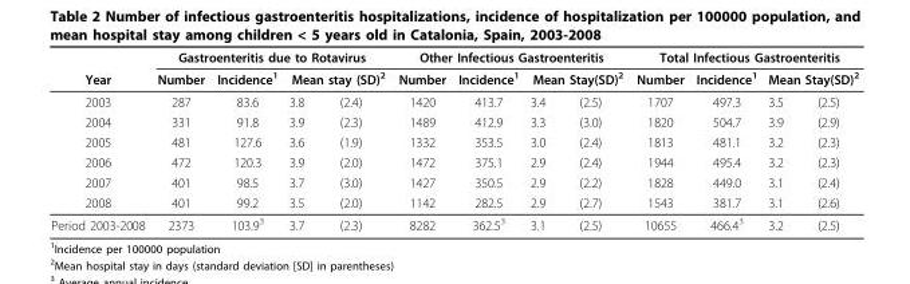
<table><thead><tr><td rowspan="3">Year 2003</td><td colspan="4">Gastroenteritis due to Rotavirus</td><td colspan="4">Other Infectious Gastroenteritis</td><td colspan="4">Total Infectious Gastroenteritis</td></tr><tr><td rowspan="2">Number 287</td><td rowspan="2">Incidence1 83.6</td><td colspan="2">Mean stay (SD)2</td><td rowspan="2">Number 1420</td><td rowspan="2">Incidence1 413.7</td><td colspan="2">Mean Stay(SD)2</td><td rowspan="2">Number 1707</td><td rowspan="2">Incidence1 497.3</td><td colspan="2">Mean Stay(SD)2</td></tr><tr><td>3.8</td><td>(2.4)</td><td>3.4</td><td>(2.5)</td><td>3.5</td><td>(2.5)</td></tr></thead><tbody><tr><td>2004</td><td>331</td><td>91.8</td><td>3.9</td><td>(2.3)</td><td>1489</td><td>412.9</td><td>3.3</td><td>(3.0)</td><td>1820</td><td>504.7</td><td>3.9</td><td>(2.9)</td></tr><tr><td>2005</td><td>481</td><td>127.6</td><td>3.6</td><td>(1.9)</td><td>1332</td><td>353.5</td><td>3.0</td><td>(2.4)</td><td>1813</td><td>481.1</td><td>3.2</td><td>(2.3)</td></tr><tr><td>2006</td><td>472</td><td>120.3</td><td>3.9</td><td>(2.0)</td><td>1472</td><td>375.1</td><td>2.9</td><td>(2.4)</td><td>1944</td><td>495.4</td><td>3.2</td><td>(2.3)</td></tr><tr><td>2007</td><td>401</td><td>98.5</td><td>3.7</td><td>(3.0)</td><td>1427</td><td>350.5</td><td>2.9</td><td>(2.2)</td><td>1828</td><td>449.0</td><td>3.1</td><td>(2.4)</td></tr><tr><td>2008</td><td>401</td><td>99.2</td><td>3.5</td><td>(2.0)</td><td>1142</td><td>282.5</td><td>2.9</td><td>(2.7)</td><td>1543</td><td>381.7</td><td>3.1</td><td>(2.6)</td></tr><tr><td>Period 2003-2008</td><td>2373</td><td>103.9<sup>3</sup></td><td>3.7</td><td>(2.3)</td><td>8282</td><td>362.5<sup>3</sup></td><td>3.1</td><td>(2.5)</td><td>10655</td><td>466.4<sup>3</sup></td><td>3.2</td><td>(2.5)</td></tr></tbody></table>